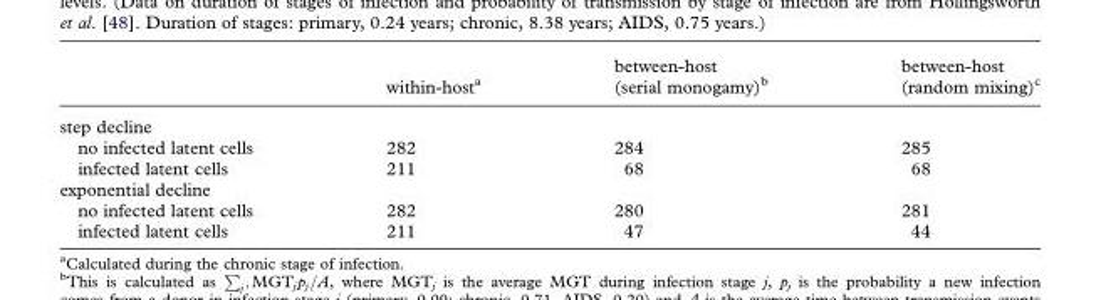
<table><thead><tr><td></td><td>within-host<sup>a</sup></td><td>between-host (serial monogamy)<sup>b</sup></td><td>between-host (random mixing)<sup>c</sup></td></tr></thead><tbody><tr><td colspan="4">step decline</td></tr><tr><td>no infected latent cells</td><td>282</td><td>284</td><td>285</td></tr><tr><td>infected latent cells</td><td>211</td><td>68</td><td>68</td></tr><tr><td colspan="4">exponential decline</td></tr><tr><td>no infected latent cells</td><td>282</td><td>280</td><td>281</td></tr><tr><td>infected latent cells</td><td>211</td><td>47</td><td>44</td></tr></tbody></table>